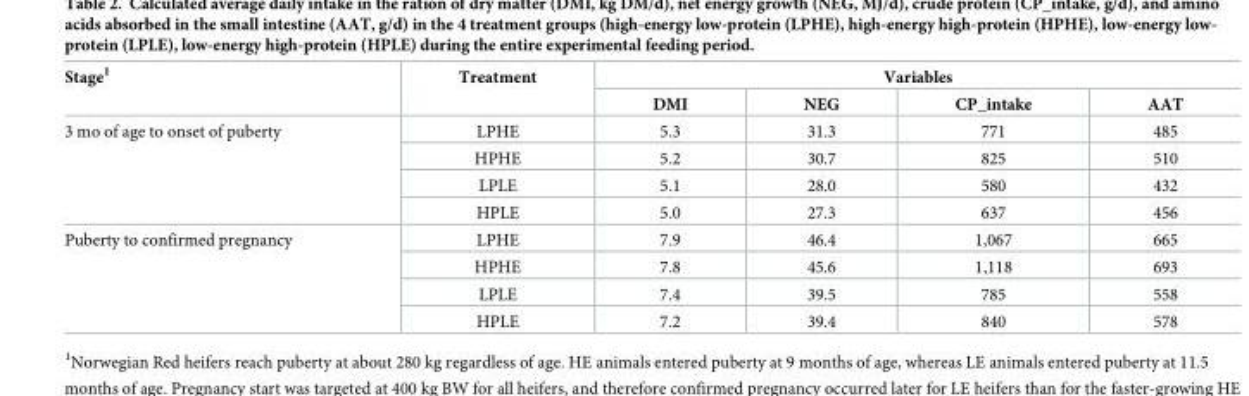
<table><thead><tr><td rowspan="2">Stage<sup>1</sup></td><td rowspan="2">Treatment</td><td colspan="4">Variables</td></tr><tr><td>DMI</td><td>NEG</td><td>CP_intake</td><td>AAT</td></tr></thead><tbody><tr><td rowspan="4">3 mo of age to onset of puberty</td><td>LPHE</td><td>5.3</td><td>31.3</td><td>771</td><td>485</td></tr><tr><td>HPHE</td><td>5.2</td><td>30.7</td><td>825</td><td>510</td></tr><tr><td>LPLE</td><td>5.1</td><td>28.0</td><td>580</td><td>432</td></tr><tr><td>HPLE</td><td>5.0</td><td>27.3</td><td>637</td><td>456</td></tr><tr><td rowspan="4">Puberty to confirmed pregnancy</td><td>LPHE</td><td>7.9</td><td>46.4</td><td>1,067</td><td>665</td></tr><tr><td>HPHE</td><td>7.8</td><td>45.6</td><td>1,118</td><td>693</td></tr><tr><td>LPLE</td><td>7.4</td><td>39.5</td><td>785</td><td>558</td></tr><tr><td>HPLE</td><td>7.2</td><td>39.4</td><td>840</td><td>578</td></tr></tbody></table>